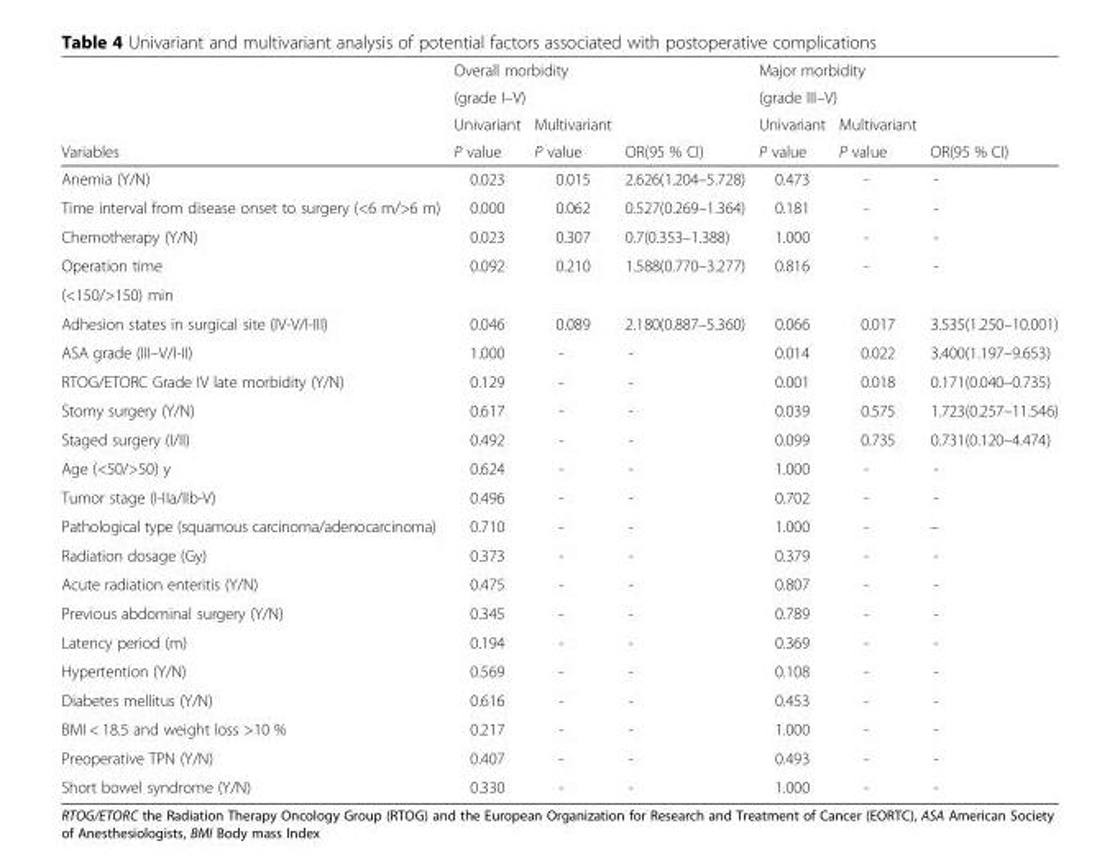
<table><thead><tr><td rowspan="4">Variables</td><td rowspan="2" colspan="3">Overall morbidity (grade I–V)</td><td rowspan="2" colspan="3">Major morbidity (grade III–V)</td></tr><tr></tr><tr><td rowspan="2">Univariant P value</td><td rowspan="2">Multivariant P value</td><td rowspan="2">OR(95 % CI)</td><td rowspan="2">Univariant P value</td><td rowspan="2">Multivariant P value</td><td rowspan="2">OR(95 % CI)</td></tr><tr></tr></thead><tbody><tr><td>Anemia (Y/N)</td><td>0.023</td><td>0.015</td><td>2.626(1.204–5.728)</td><td>0.473</td><td>-</td><td>-</td></tr><tr><td>Time interval from disease onset to surgery (&lt;6 m/&gt;6 m)</td><td>0.000</td><td>0.062</td><td>0.527(0.269–1.364)</td><td>0.181</td><td>-</td><td>-</td></tr><tr><td>Chemotherapy (Y/N)</td><td>0.023</td><td>0.307</td><td>0.7(0.353–1.388)</td><td>1.000</td><td>-</td><td>-</td></tr><tr><td>Operation time</td><td>0.092</td><td>0.210</td><td>1.588(0.770–3.277)</td><td>0.816</td><td>-</td><td>-</td></tr><tr><td colspan="7">(&lt;150/&gt;150) min</td></tr><tr><td>Adhesion states in surgical site (IV-V/I-III)</td><td>0.046</td><td>0.089</td><td>2.180(0.887–5.360)</td><td>0.066</td><td>0.017</td><td>3.535(1.250–10.001)</td></tr><tr><td>ASA grade (III–V/I-II)</td><td>1.000</td><td>-</td><td>-</td><td>0.014</td><td>0.022</td><td>3.400(1.197–9.653)</td></tr><tr><td>RTOG/ETORC Grade IV late morbidity (Y/N)</td><td>0.129</td><td>-</td><td>-</td><td>0.001</td><td>0.018</td><td>0.171(0.040–0.735)</td></tr><tr><td>Stomy surgery (Y/N)</td><td>0.617</td><td>-</td><td>-</td><td>0.039</td><td>0.575</td><td>1.723(0.257–11.546)</td></tr><tr><td>Staged surgery (I/II)</td><td>0.492</td><td>-</td><td>-</td><td>0.099</td><td>0.735</td><td>0.731(0.120–4.474)</td></tr><tr><td>Age (&lt;50/&gt;50) y</td><td>0.624</td><td>-</td><td>-</td><td>1.000</td><td>-</td><td>-</td></tr><tr><td>Tumor stage (I-IIa/IIb-V)</td><td>0.496</td><td>-</td><td>-</td><td>0.702</td><td>-</td><td>-</td></tr><tr><td>Pathological type (squamous carcinoma/adenocarcinoma)</td><td>0.710</td><td>-</td><td>-</td><td>1.000</td><td>-</td><td>–</td></tr><tr><td>Radiation dosage (Gy)</td><td>0.373</td><td>-</td><td>-</td><td>0.379</td><td>-</td><td>-</td></tr><tr><td>Acute radiation enteritis (Y/N)</td><td>0.475</td><td>-</td><td>-</td><td>0.807</td><td>-</td><td>-</td></tr><tr><td>Previous abdominal surgery (Y/N)</td><td>0.345</td><td>-</td><td>-</td><td>0.789</td><td>-</td><td>-</td></tr><tr><td>Latency period (m)</td><td>0.194</td><td>-</td><td>-</td><td>0.369</td><td>-</td><td>-</td></tr><tr><td>Hypertention (Y/N)</td><td>0.569</td><td>-</td><td>-</td><td>0.108</td><td>-</td><td>-</td></tr><tr><td>Diabetes mellitus (Y/N)</td><td>0.616</td><td>-</td><td>-</td><td>0.453</td><td>-</td><td>-</td></tr><tr><td>BMI &lt; 18.5 and weight loss &gt;10 %</td><td>0.217</td><td>-</td><td>-</td><td>1.000</td><td>-</td><td>-</td></tr><tr><td>Preoperative TPN (Y/N)</td><td>0.407</td><td>-</td><td>-</td><td>0.493</td><td>-</td><td>-</td></tr><tr><td>Short bowel syndrome (Y/N)</td><td>0.330</td><td>-</td><td>-</td><td>1.000</td><td>-</td><td>-</td></tr></tbody></table>